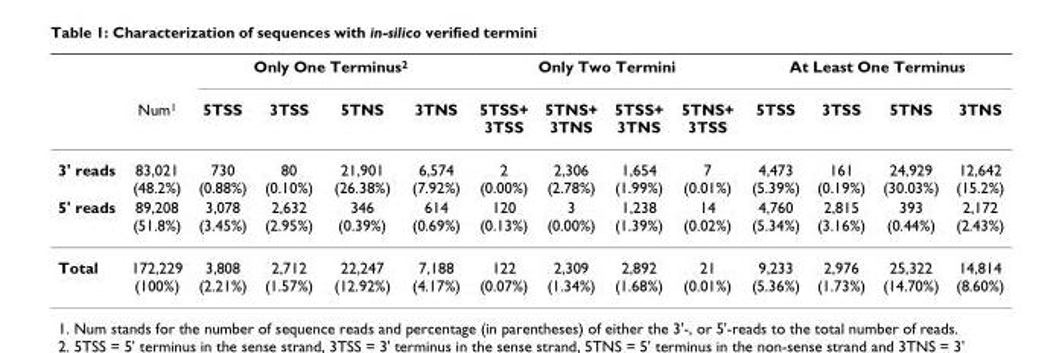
<table><thead><tr><td rowspan="2"></td><td rowspan="2">Num1</td><td colspan="4">Only One Terminus2</td><td colspan="4">Only Two Termini</td><td colspan="4">At Least One Terminus</td></tr><tr><td>5TSS</td><td>3TSS</td><td>5TNS</td><td>3TNS</td><td>5TSS+ 3TSS</td><td>5TNS+ 3TNS</td><td>5TSS+ 3TNS</td><td>5TNS+ 3TSS</td><td>5TSS</td><td>3TSS</td><td>5TNS</td><td>3TNS</td></tr></thead><tbody><tr><td>3&#x27; reads</td><td>83,021 (48.2%)</td><td>730 (0.88%)</td><td>80 (0.10%)</td><td>21,901 (26.38%)</td><td>6,574 (7.92%)</td><td>2 (0.00%)</td><td>2,306 (2.78%)</td><td>1,654 (1.99%)</td><td>7 (0.01%)</td><td>4,473 (5.39%)</td><td>161 (0.19%)</td><td>24,929 (30.03%)</td><td>12,642 (15.2%)</td></tr><tr><td>5&#x27; reads</td><td>89,208 (51.8%)</td><td>3,078 (3.45%)</td><td>2,632 (2.95%)</td><td>346 (0.39%)</td><td>614 (0.69%)</td><td>120 (0.13%)</td><td>3 (0.00%)</td><td>1,238 (1.39%)</td><td>14 (0.02%)</td><td>4,760 (5.34%)</td><td>2,815 (3.16%)</td><td>393 (0.44%)</td><td>2,172 (2.43%)</td></tr><tr><td>Total</td><td>172,229 (100%)</td><td>3,808 (2.21%)</td><td>2,712 (1.57%)</td><td>22,247 (12.92%)</td><td>7,188 (4.17%)</td><td>122 (0.07%)</td><td>2,309 (1.34%)</td><td>2,892 (1.68%)</td><td>21 (0.01%)</td><td>9,233 (5.36%)</td><td>2,976 (1.73%)</td><td>25,322 (14.70%)</td><td>14,814 (8.60%)</td></tr></tbody></table>